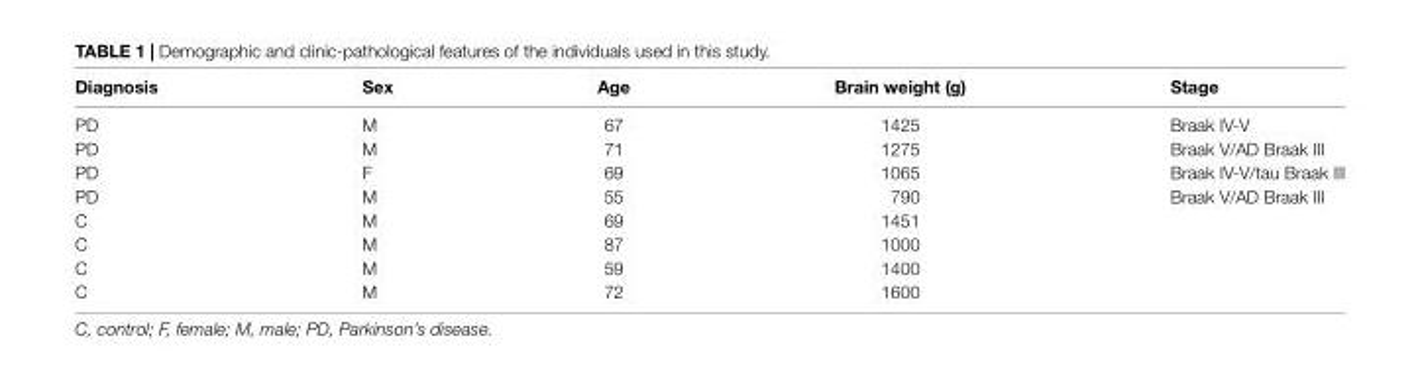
<table><thead><tr><td>Diagnosis</td><td>Sex</td><td>Age</td><td>Brain weight (g)</td><td>Stage</td></tr></thead><tbody><tr><td>PD</td><td>M</td><td>67</td><td>1425</td><td>Braak IV-V</td></tr><tr><td>PD</td><td>M</td><td>71</td><td>1275</td><td>Braak V/AD Braak III</td></tr><tr><td>PD</td><td>F</td><td>69</td><td>1065</td><td>Braak IV-V/tau Braak III</td></tr><tr><td>PD</td><td>M</td><td>55</td><td>790</td><td>Braak V/AD Braak III</td></tr><tr><td>C</td><td>M</td><td>69</td><td>1451</td><td></td></tr><tr><td>C</td><td>M</td><td>87</td><td>1000</td><td></td></tr><tr><td>C</td><td>M</td><td>59</td><td>1400</td><td></td></tr><tr><td>C</td><td>M</td><td>72</td><td>1600</td><td></td></tr></tbody></table>